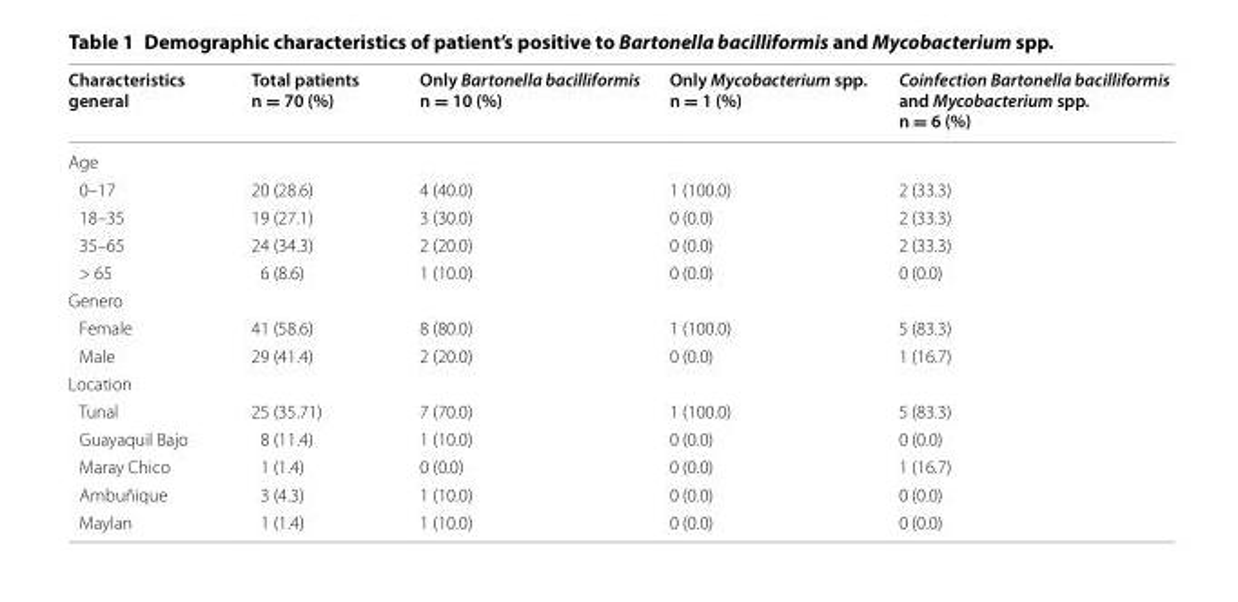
<table><thead><tr><td>Characteristics general</td><td>Total patients n = 70 (%)</td><td>Only Bartonella bacilliformis n = 10 (%)</td><td>Only Mycobacterium spp. n = 1 (%)</td><td>Coinfection Bartonella bacilliformis and Mycobacterium spp. n = 6 (%)</td></tr></thead><tbody><tr><td colspan="5">Age</td></tr><tr><td>0–17</td><td>20 (28.6)</td><td>4 (40.0)</td><td>1 (100.0)</td><td>2 (33.3)</td></tr><tr><td>18–35</td><td>19 (27.1)</td><td>3 (30.0)</td><td>0 (0.0)</td><td>2 (33.3)</td></tr><tr><td>35–65</td><td>24 (34.3)</td><td>2 (20.0)</td><td>0 (0.0)</td><td>2 (33.3)</td></tr><tr><td>&gt; 65</td><td>6 (8.6)</td><td>1 (10.0)</td><td>0 (0.0)</td><td>0 (0.0)</td></tr><tr><td colspan="5">Genero</td></tr><tr><td>Female</td><td>41 (58.6)</td><td>8 (80.0)</td><td>1 (100.0)</td><td>5 (83.3)</td></tr><tr><td>Male</td><td>29 (41.4)</td><td>2 (20.0)</td><td>0 (0.0)</td><td>1 (16.7)</td></tr><tr><td colspan="5">Location</td></tr><tr><td>Tunal</td><td>25 (35.71)</td><td>7 (70.0)</td><td>1 (100.0)</td><td>5 (83.3)</td></tr><tr><td>Guayaquil Bajo</td><td>8 (11.4)</td><td>1 (10.0)</td><td>0 (0.0)</td><td>0 (0.0)</td></tr><tr><td>Maray Chico</td><td>1 (1.4)</td><td>0 (0.0)</td><td>0 (0.0)</td><td>1 (16.7)</td></tr><tr><td>Ambuñique</td><td>3 (4.3)</td><td>1 (10.0)</td><td>0 (0.0)</td><td>0 (0.0)</td></tr><tr><td>Maylan</td><td>1 (1.4)</td><td>1 (10.0)</td><td>0 (0.0)</td><td>0 (0.0)</td></tr></tbody></table>